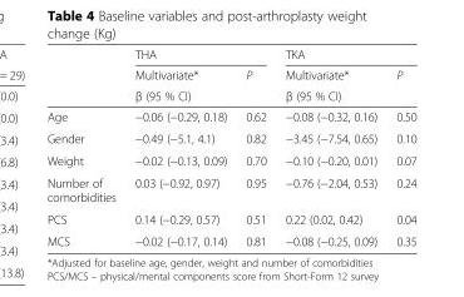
<table><thead><tr><td rowspan="3"></td><td colspan="2">THA</td><td colspan="2">TKA</td></tr><tr><td rowspan="2">Multivariate* β (95 % CI)</td><td rowspan="2">P</td><td rowspan="2">Multivariate* β (95 % CI)</td><td rowspan="2">P</td></tr><tr></tr></thead><tbody><tr><td>Age</td><td>−0.06 (−0.29, 0.18)</td><td>0.62</td><td>−0.08 (−0.32, 0.16)</td><td>0.50</td></tr><tr><td>Gender</td><td>−0.49 (−5.1, 4.1)</td><td>0.82</td><td>−3.45 (−7.54, 0.65)</td><td>0.10</td></tr><tr><td>Weight</td><td>−0.02 (−0.13, 0.09)</td><td>0.70</td><td>−0.10 (−0.20, 0.01)</td><td>0.07</td></tr><tr><td>Number of comorbidities</td><td>0.03 (−0.92, 0.97)</td><td>0.95</td><td>−0.76 (−2.04, 0.53)</td><td>0.24</td></tr><tr><td>PCS</td><td>0.14 (−0.29, 0.57)</td><td>0.51</td><td>0.22 (0.02, 0.42)</td><td>0.04</td></tr><tr><td>MCS</td><td>−0.02 (−0.17, 0.14)</td><td>0.81</td><td>−0.08 (−0.25, 0.09)</td><td>0.35</td></tr></tbody></table>